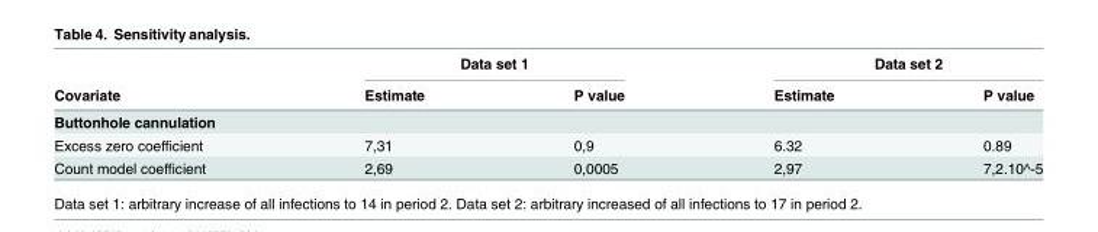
<table><thead><tr><td rowspan="2">Covariate</td><td colspan="2">Data set 1</td><td colspan="2">Data set 2</td></tr><tr><td>Estimate</td><td>P value</td><td>Estimate</td><td>P value</td></tr></thead><tbody><tr><td colspan="5">Buttonhole cannulation</td></tr><tr><td>Excess zero coefficient</td><td>7,31</td><td>0,9</td><td>6.32</td><td>0.89</td></tr><tr><td>Count model coefficient</td><td>2,69</td><td>0,0005</td><td>2,97</td><td>7,2.10^-5</td></tr></tbody></table>